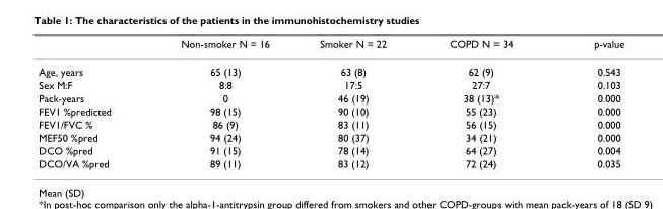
<table><thead><tr><td></td><td>Non-smoker N = 16</td><td>Smoker N = 22</td><td>COPD N = 34</td><td>p-value</td></tr></thead><tbody><tr><td>Age, years</td><td>65 (13)</td><td>63 (8)</td><td>62 (9)</td><td>0.543</td></tr><tr><td>Sex M:F</td><td>8:8</td><td>17:5</td><td>27:7</td><td>0.103</td></tr><tr><td>Pack-years</td><td>0</td><td>46 (19)</td><td>38 (13)*</td><td>0.000</td></tr><tr><td>FEV1 %predicted</td><td>98 (15)</td><td>90 (10)</td><td>55 (23)</td><td>0.000</td></tr><tr><td>FEV1/FVC %</td><td>86 (9)</td><td>83 (11)</td><td>56 (15)</td><td>0.000</td></tr><tr><td>MEF50 %pred</td><td>94 (24)</td><td>80 (37)</td><td>34 (21)</td><td>0.000</td></tr><tr><td>DCO %pred</td><td>91 (15)</td><td>78 (14)</td><td>64 (27)</td><td>0.004</td></tr><tr><td>DCO/VA %pred</td><td>89 (11)</td><td>83 (12)</td><td>72 (24)</td><td>0.035</td></tr></tbody></table>